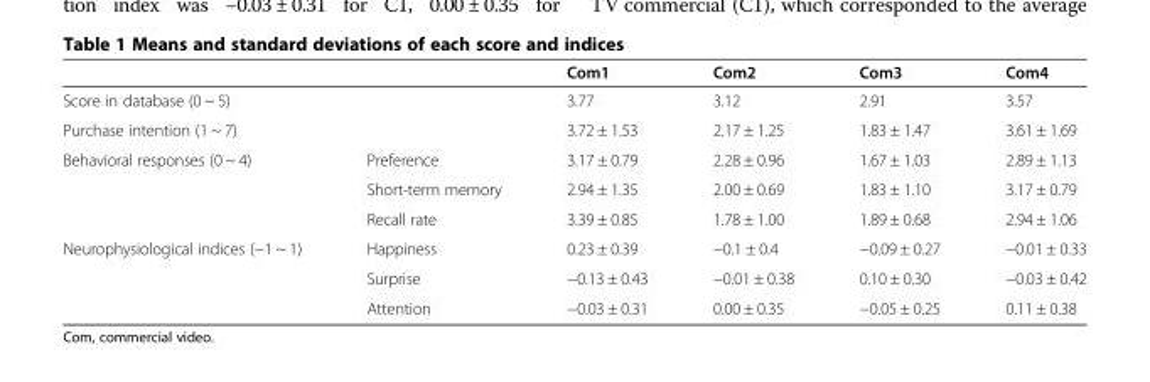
<table><thead><tr><td></td><td></td><td>Com1</td><td>Com2</td><td>Com3</td><td>Com4</td></tr></thead><tbody><tr><td colspan="2">Score in database (0 ~ 5)</td><td>3.77</td><td>3.12</td><td>2.91</td><td>3.57</td></tr><tr><td colspan="2">Purchase intention (1 ~ 7)</td><td>3.72 ± 1.53</td><td>2.17 ± 1.25</td><td>1.83 ± 1.47</td><td>3.61 ± 1.69</td></tr><tr><td rowspan="3">Behavioral responses (0 ~ 4)</td><td>Preference</td><td>3.17 ± 0.79</td><td>2.28 ± 0.96</td><td>1.67 ± 1.03</td><td>2.89 ± 1.13</td></tr><tr><td>Short-term memory</td><td>2.94 ± 1.35</td><td>2.00 ± 0.69</td><td>1.83 ± 1.10</td><td>3.17 ± 0.79</td></tr><tr><td>Recall rate</td><td>3.39 ± 0.85</td><td>1.78 ± 1.00</td><td>1.89 ± 0.68</td><td>2.94 ± 1.06</td></tr><tr><td rowspan="3">Neurophysiological indices (−1 ~ 1)</td><td>Happiness</td><td>0.23 ± 0.39</td><td>−0.1 ± 0.4</td><td>−0.09 ± 0.27</td><td>−0.01 ± 0.33</td></tr><tr><td>Surprise</td><td>−0.13 ± 0.43</td><td>−0.01 ± 0.38</td><td>0.10 ± 0.30</td><td>−0.03 ± 0.42</td></tr><tr><td>Attention</td><td>−0.03 ± 0.31</td><td>0.00 ± 0.35</td><td>−0.05 ± 0.25</td><td>0.11 ± 0.38</td></tr></tbody></table>